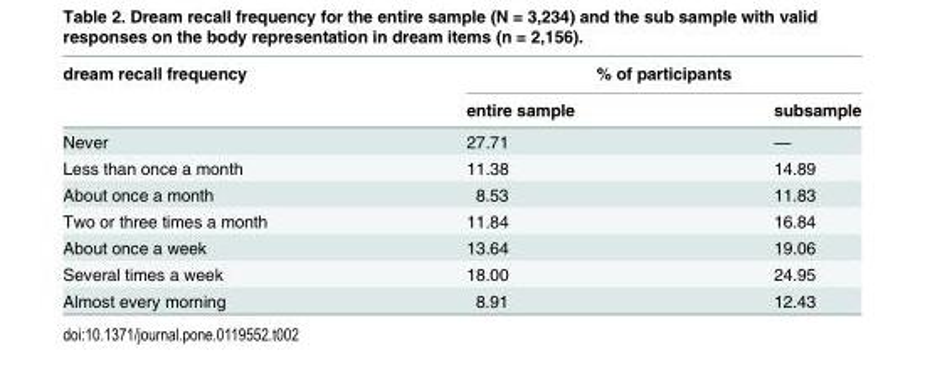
<table><thead><tr><td rowspan="2">dream recall frequency</td><td colspan="2">% of participants</td></tr><tr><td>entire sample</td><td>subsample</td></tr></thead><tbody><tr><td>Never</td><td>27.71</td><td>—</td></tr><tr><td>Less than once a month</td><td>11.38</td><td>14.89</td></tr><tr><td>About once a month</td><td>8.53</td><td>11.83</td></tr><tr><td>Two or three times a month</td><td>11.84</td><td>16.84</td></tr><tr><td>About once a week</td><td>13.64</td><td>19.06</td></tr><tr><td>Several times a week</td><td>18.00</td><td>24.95</td></tr><tr><td>Almost every morning</td><td>8.91</td><td>12.43</td></tr></tbody></table>